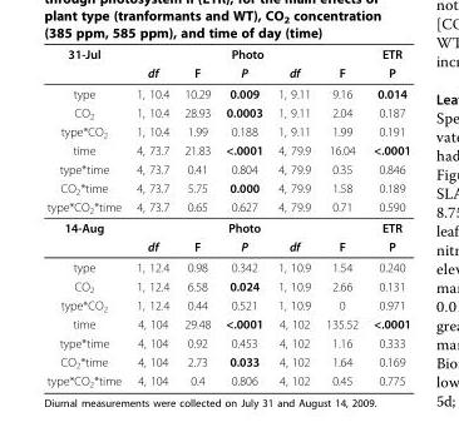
<table><thead><tr><td rowspan="2">31-Jul</td><td colspan="5">Photo</td><td rowspan="2">ETR P</td></tr><tr><td>df</td><td>F</td><td>P</td><td>df</td><td>F</td></tr></thead><tbody><tr><td>type</td><td>1, 10.4</td><td>10.29</td><td>0.009</td><td>1, 9.11</td><td>9.16</td><td>0.014</td></tr><tr><td>CO2</td><td>1, 10.4</td><td>28.93</td><td>0.0003</td><td>1, 9.11</td><td>2.04</td><td>0.187</td></tr><tr><td>type*CO2</td><td>1, 10.4</td><td>1.99</td><td>0.188</td><td>1, 9.11</td><td>1.99</td><td>0.191</td></tr><tr><td>time</td><td>4, 73.7</td><td>21.83</td><td>&lt;.0001</td><td>4, 79.9</td><td>16.04</td><td>&lt;.0001</td></tr><tr><td>type*time</td><td>4, 73.7</td><td>0.41</td><td>0.804</td><td>4, 79.9</td><td>0.35</td><td>0.846</td></tr><tr><td>CO2*time</td><td>4, 73.7</td><td>5.75</td><td>0.000</td><td>4, 79.9</td><td>1.58</td><td>0.189</td></tr><tr><td>type*CO2*time</td><td>4, 73.7</td><td>0.65</td><td>0.627</td><td>4, 79.9</td><td>0.71</td><td>0.590</td></tr><tr><td rowspan="2">14-Aug</td><td></td><td></td><td>Photo</td><td></td><td></td><td>ETR</td></tr><tr><td>df</td><td>F</td><td>P</td><td>df</td><td>F</td><td>P</td></tr><tr><td>type</td><td>1, 12.4</td><td>0.98</td><td>0.342</td><td>1, 10.9</td><td>1.54</td><td>0.240</td></tr><tr><td>CO2</td><td>1, 12.4</td><td>6.58</td><td>0.024</td><td>1, 10.9</td><td>2.66</td><td>0.131</td></tr><tr><td>type*CO2</td><td>1, 12.4</td><td>0.44</td><td>0.521</td><td>1, 10.9</td><td>0</td><td>0.971</td></tr><tr><td>time</td><td>4, 104</td><td>29.48</td><td>&lt;.0001</td><td>4, 102</td><td>135.52</td><td>&lt;.0001</td></tr><tr><td>type*time</td><td>4, 104</td><td>0.92</td><td>0.453</td><td>4, 102</td><td>1.16</td><td>0.333</td></tr><tr><td>CO2*time</td><td>4, 104</td><td>2.73</td><td>0.033</td><td>4, 102</td><td>1.64</td><td>0.169</td></tr><tr><td>type*CO2*time</td><td>4, 104</td><td>0.4</td><td>0.806</td><td>4, 102</td><td>0.45</td><td>0.775</td></tr></tbody></table>